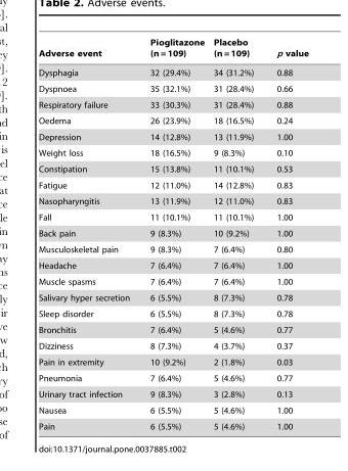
<table><thead><tr><td>Adverse event</td><td>Pioglitazone (n = 109)</td><td>Placebo (n = 109)</td><td>p value</td></tr></thead><tbody><tr><td>Dysphagia</td><td>32 (29.4%)</td><td>34 (31.2%)</td><td>0.88</td></tr><tr><td>Dyspnoea</td><td>35 (32.1%)</td><td>31 (28.4%)</td><td>0.66</td></tr><tr><td>Respiratory failure</td><td>33 (30.3%)</td><td>31 (28.4%)</td><td>0.88</td></tr><tr><td>Oedema</td><td>26 (23.9%)</td><td>18 (16.5%)</td><td>0.24</td></tr><tr><td>Depression</td><td>14 (12.8%)</td><td>13 (11.9%)</td><td>1.00</td></tr><tr><td>Weight loss</td><td>18 (16.5%)</td><td>9 (8.3%)</td><td>0.10</td></tr><tr><td>Constipation</td><td>15 (13.8%)</td><td>11 (10.1%)</td><td>0.53</td></tr><tr><td>Fatigue</td><td>12 (11.0%)</td><td>14 (12.8%)</td><td>0.83</td></tr><tr><td>Nasopharyngitis</td><td>13 (11.9%)</td><td>12 (11.0%)</td><td>0.83</td></tr><tr><td>Fall</td><td>11 (10.1%)</td><td>11 (10.1%)</td><td>1.00</td></tr><tr><td>Back pain</td><td>9 (8.3%)</td><td>10 (9.2%)</td><td>1.00</td></tr><tr><td>Musculoskeletal pain</td><td>9 (8.3%)</td><td>7 (6.4%)</td><td>0.80</td></tr><tr><td>Headache</td><td>7 (6.4%)</td><td>7 (6.4%)</td><td>1.00</td></tr><tr><td>Muscle spasms</td><td>7 (6.4%)</td><td>7 (6.4%)</td><td>1.00</td></tr><tr><td>Salivary hyper secretion</td><td>6 (5.5%)</td><td>8 (7.3%)</td><td>0.78</td></tr><tr><td>Sleep disorder</td><td>6 (5.5%)</td><td>8 (7.3%)</td><td>0.78</td></tr><tr><td>Bronchitis</td><td>7 (6.4%)</td><td>5 (4.6%)</td><td>0.77</td></tr><tr><td>Dizziness</td><td>8 (7.3%)</td><td>4 (3.7%)</td><td>0.37</td></tr><tr><td>Pain in extremity</td><td>10 (9.2%)</td><td>2 (1.8%)</td><td>0.03</td></tr><tr><td>Pneumonia</td><td>7 (6.4%)</td><td>5 (4.6%)</td><td>0.77</td></tr><tr><td>Urinary tract infection</td><td>9 (8.3%)</td><td>3 (2.8%)</td><td>0.13</td></tr><tr><td>Nausea</td><td>6 (5.5%)</td><td>5 (4.6%)</td><td>1.00</td></tr><tr><td>Pain</td><td>6 (5.5%)</td><td>5 (4.6%)</td><td>1.00</td></tr></tbody></table>